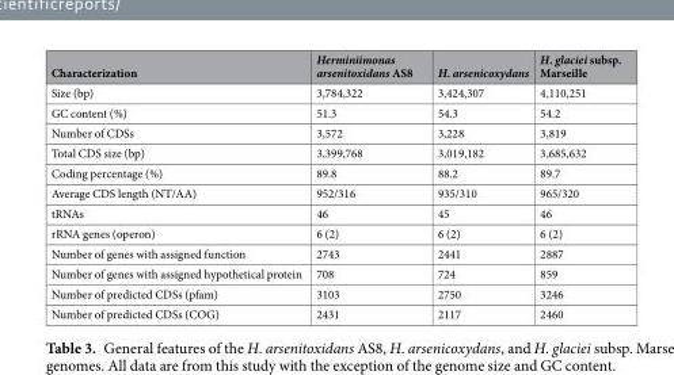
<table><thead><tr><td>Characterization</td><td>Herminiimonas arsenitoxidans AS8</td><td>H. arsenicoxydans</td><td>H. glaciei subsp. Marseille</td></tr></thead><tbody><tr><td>Size (bp)</td><td>3,784,322</td><td>3,424,307</td><td>4,110,251</td></tr><tr><td>GC content (%)</td><td>51.3</td><td>54.3</td><td>54.2</td></tr><tr><td>Number of CDSs</td><td>3,572</td><td>3,228</td><td>3,819</td></tr><tr><td>Total CDS size (bp)</td><td>3,399,768</td><td>3,019,182</td><td>3,685,632</td></tr><tr><td>Coding percentage (%)</td><td>89.8</td><td>88.2</td><td>89.7</td></tr><tr><td>Average CDS length (NT/AA)</td><td>952/316</td><td>935/310</td><td>965/320</td></tr><tr><td>tRNAs</td><td>46</td><td>45</td><td>46</td></tr><tr><td>rRNA genes (operon)</td><td>6 (2)</td><td>6 (2)</td><td>6 (2)</td></tr><tr><td>Number of genes with assigned function</td><td>2743</td><td>2441</td><td>2887</td></tr><tr><td>Number of genes with assigned hypothetical protein</td><td>708</td><td>724</td><td>859</td></tr><tr><td>Number of predicted CDSs (pfam)</td><td>3103</td><td>2750</td><td>3246</td></tr><tr><td>Number of predicted CDSs (COG)</td><td>2431</td><td>2117</td><td>2460</td></tr></tbody></table>